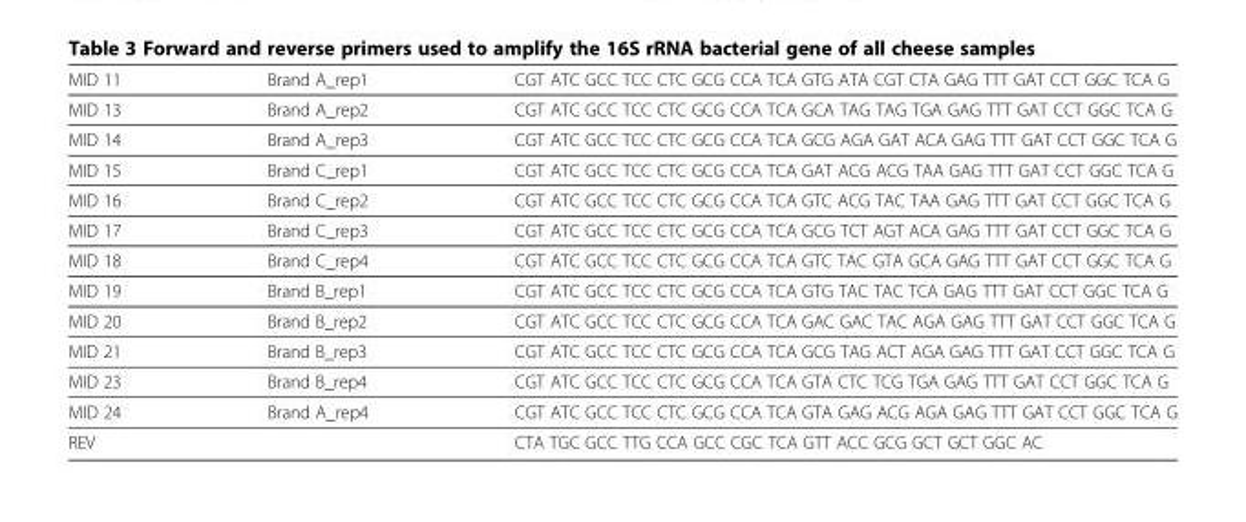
<table><tbody><tr><td>MID 11</td><td>Brand A_rep1</td><td>CGT ATC GCC TCC CTC GCG CCA TCA GTG ATA CGT CTA GAG TTT GAT CCT GGC TCA G</td></tr><tr><td>MID 13</td><td>Brand A_rep2</td><td>CGT ATC GCC TCC CTC GCG CCA TCA GCA TAG TAG TGA GAG TTT GAT CCT GGC TCA G</td></tr><tr><td>MID 14</td><td>Brand A_rep3</td><td>CGT ATC GCC TCC CTC GCG CCA TCA GCG AGA GAT ACA GAG TTT GAT CCT GGC TCA G</td></tr><tr><td>MID 15</td><td>Brand C_rep1</td><td>CGT ATC GCC TCC CTC GCG CCA TCA GAT ACG ACG TAA GAG TTT GAT CCT GGC TCA G</td></tr><tr><td>MID 16</td><td>Brand C_rep2</td><td>CGT ATC GCC TCC CTC GCG CCA TCA GTC ACG TAC TAA GAG TTT GAT CCT GGC TCA G</td></tr><tr><td>MID 17</td><td>Brand C_rep3</td><td>CGT ATC GCC TCC CTC GCG CCA TCA GCG TCT AGT ACA GAG TTT GAT CCT GGC TCA G</td></tr><tr><td>MID 18</td><td>Brand C_rep4</td><td>CGT ATC GCC TCC CTC GCG CCA TCA GTC TAC GTA GCA GAG TTT GAT CCT GGC TCA G</td></tr><tr><td>MID 19</td><td>Brand B_rep1</td><td>CGT ATC GCC TCC CTC GCG CCA TCA GTG TAC TAC TCA GAG TTT GAT CCT GGC TCA G</td></tr><tr><td>MID 20</td><td>Brand B_rep2</td><td>CGT ATC GCC TCC CTC GCG CCA TCA GAC GAC TAC AGA GAG TTT GAT CCT GGC TCA G</td></tr><tr><td>MID 21</td><td>Brand B_rep3</td><td>CGT ATC GCC TCC CTC GCG CCA TCA GCG TAG ACT AGA GAG TTT GAT CCT GGC TCA G</td></tr><tr><td>MID 23</td><td>Brand B_rep4</td><td>CGT ATC GCC TCC CTC GCG CCA TCA GTA CTC TCG TGA GAG TTT GAT CCT GGC TCA G</td></tr><tr><td>MID 24</td><td>Brand A_rep4</td><td>CGT ATC GCC TCC CTC GCG CCA TCA GTA GAG ACG AGA GAG TTT GAT CCT GGC TCA G</td></tr><tr><td>REV</td><td></td><td>CTA TGC GCC TTG CCA GCC CGC TCA GTT ACC GCG GCT GCT GGC AC</td></tr></tbody></table>